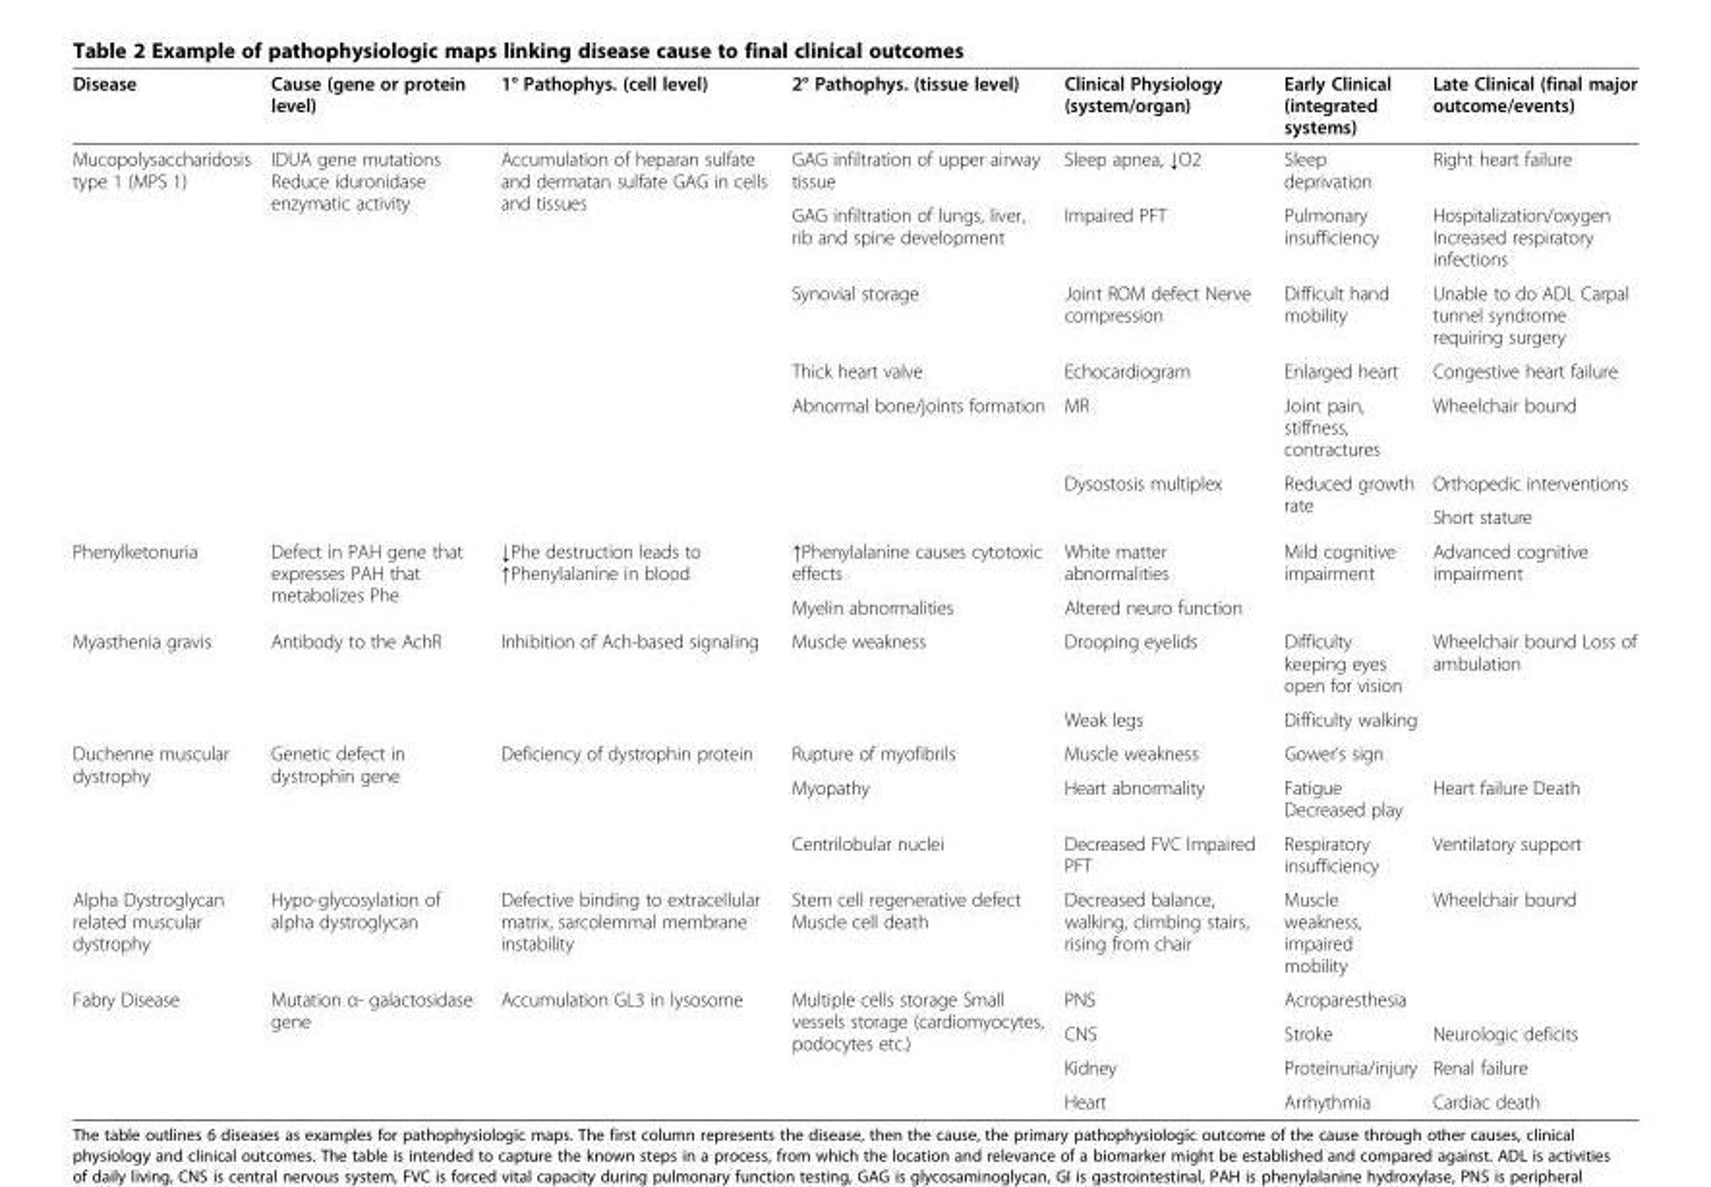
<table><thead><tr><td>Disease</td><td>Cause (gene or protein level)</td><td>1° Pathophys. (cell level)</td><td>2° Pathophys. (tissue level)</td><td>Clinical Physiology (system/organ)</td><td>Early Clinical (integrated systems)</td><td>Late Clinical (final major outcome/events)</td></tr></thead><tbody><tr><td rowspan="7">Mucopolysaccharidosis type 1 (MPS 1)</td><td rowspan="7">IDUA gene mutations Reduce iduronidase enzymatic activity</td><td rowspan="7">Accumulation of heparan sulfate and dermatan sulfate GAG in cells and tissues</td><td>GAG infiltration of upper airway tissue</td><td>Sleep apnea, ↓O2</td><td>Sleep deprivation</td><td>Right heart failure</td></tr><tr><td>GAG infiltration of lungs, liver, rib and spine development</td><td>Impaired PFT</td><td>Pulmonary insufficiency</td><td>Hospitalization/oxygen Increased respiratory infections</td></tr><tr><td>Synovial storage</td><td>Joint ROM defect Nerve compression</td><td>Difficult hand mobility</td><td>Unable to do ADL Carpal tunnel syndrome requiring surgery</td></tr><tr><td>Thick heart valve</td><td>Echocardiogram</td><td>Enlarged heart</td><td>Congestive heart failure</td></tr><tr><td rowspan="3">Abnormal bone/joints formation</td><td>MR</td><td>Joint pain, stiffness, contractures</td><td>Wheelchair bound</td></tr><tr><td rowspan="2">Dysostosis multiplex</td><td rowspan="2">Reduced growth rate</td><td>Orthopedic interventions</td></tr><tr><td>Short stature</td></tr><tr><td rowspan="2">Phenylketonuria</td><td rowspan="2">Defect in PAH gene that expresses PAH that metabolizes Phe</td><td rowspan="2">↓Phe destruction leads to ↑Phenylalanine in blood</td><td>↑Phenylalanine causes cytotoxic effects</td><td>White matter abnormalities</td><td rowspan="2">Mild cognitive impairment</td><td rowspan="2">Advanced cognitive impairment</td></tr><tr><td>Myelin abnormalities</td><td>Altered neuro function</td></tr><tr><td rowspan="2">Myasthenia gravis</td><td rowspan="2">Antibody to the AchR</td><td rowspan="2">Inhibition of Ach-based signaling</td><td rowspan="2">Muscle weakness</td><td>Drooping eyelids</td><td>Difficulty keeping eyes open for vision</td><td rowspan="2">Wheelchair bound Loss of ambulation</td></tr><tr><td>Weak legs</td><td>Difficulty walking</td></tr><tr><td rowspan="3">Duchenne muscular dystrophy</td><td rowspan="3">Genetic defect in dystrophin gene</td><td rowspan="3">Deficiency of dystrophin protein</td><td>Rupture of myofibrils</td><td>Muscle weakness</td><td>Gower’s sign</td><td></td></tr><tr><td>Myopathy</td><td>Heart abnormality</td><td>Fatigue Decreased play</td><td>Heart failure Death</td></tr><tr><td>Centrilobular nuclei</td><td>Decreased FVC Impaired PFT</td><td>Respiratory insufficiency</td><td>Ventilatory support</td></tr><tr><td>Alpha Dystroglycan related muscular dystrophy</td><td>Hypo-glycosylation of alpha dystroglycan</td><td>Defective binding to extracellular matrix, sarcolemmal membrane instability</td><td>Stem cell regenerative defect Muscle cell death</td><td>Decreased balance, walking, climbing stairs, rising from chair</td><td>Muscle weakness, impaired mobility</td><td>Wheelchair bound</td></tr><tr><td rowspan="4">Fabry Disease</td><td rowspan="4">Mutation α- galactosidase gene</td><td rowspan="4">Accumulation GL3 in lysosome</td><td rowspan="4">Multiple cells storage Small vessels storage (cardiomyocytes, podocytes etc.)</td><td>PNS</td><td>Acroparesthesia</td><td></td></tr><tr><td>CNS</td><td>Stroke</td><td>Neurologic deficits</td></tr><tr><td>Kidney</td><td>Proteinuria/injury</td><td>Renal failure</td></tr><tr><td>Heart</td><td>Arrhythmia</td><td>Cardiac death</td></tr></tbody></table>